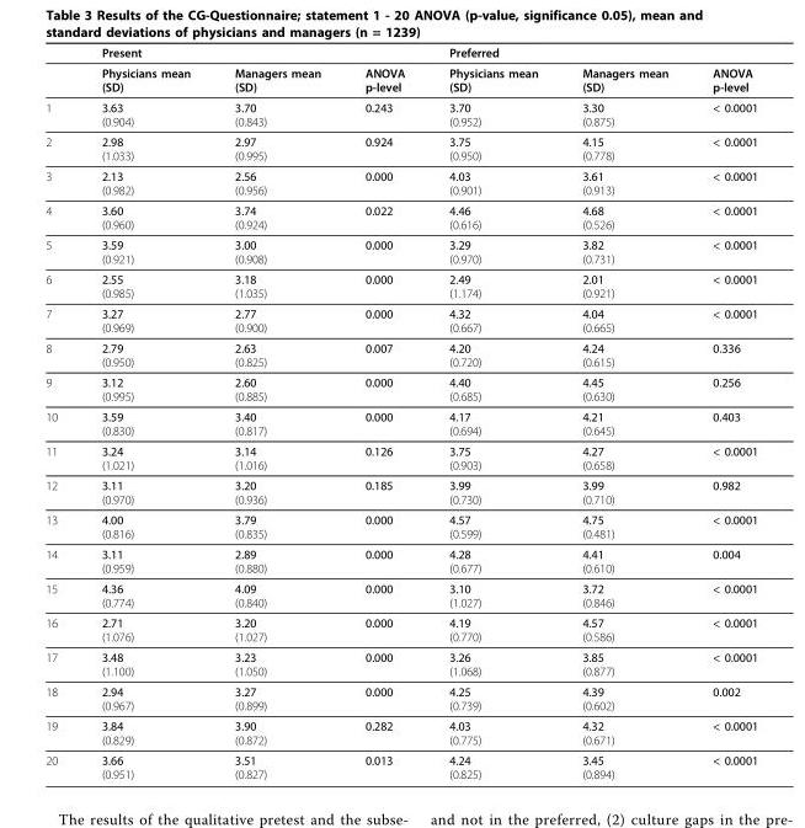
<table><thead><tr><td></td><td>Present</td><td></td><td></td><td>Preferred</td><td></td><td></td></tr></thead><tbody><tr><td></td><td>Physicians mean (SD)</td><td>Managers mean (SD)</td><td>ANOVA p-level</td><td>Physicians mean (SD)</td><td>Managers mean (SD)</td><td>ANOVA p-level</td></tr><tr><td>1</td><td>3.63 (0.904)</td><td>3.70 (0.843)</td><td>0.243</td><td>3.70 (0.952)</td><td>3.30 (0.875)</td><td>&lt; 0.0001</td></tr><tr><td>2</td><td>2.98 (1.033)</td><td>2.97 (0.995)</td><td>0.924</td><td>3.75 (0.950)</td><td>4.15 (0.778)</td><td>&lt; 0.0001</td></tr><tr><td>3</td><td>2.13 (0.982)</td><td>2.56 (0.956)</td><td>0.000</td><td>4.03 (0.901)</td><td>3.61 (0.913)</td><td>&lt; 0.0001</td></tr><tr><td>4</td><td>3.60 (0.960)</td><td>3.74 (0.924)</td><td>0.022</td><td>4.46 (0.616)</td><td>4.68 (0.526)</td><td>&lt; 0.0001</td></tr><tr><td>5</td><td>3.59 (0.921)</td><td>3.00 (0.908)</td><td>0.000</td><td>3.29 (0.970)</td><td>3.82 (0.731)</td><td>&lt; 0.0001</td></tr><tr><td>6</td><td>2.55 (0.985)</td><td>3.18 (1.035)</td><td>0.000</td><td>2.49 (1.174)</td><td>2.01 (0.921)</td><td>&lt; 0.0001</td></tr><tr><td>7</td><td>3.27 (0.969)</td><td>2.77 (0.900)</td><td>0.000</td><td>4.32 (0.667)</td><td>4.04 (0.665)</td><td>&lt; 0.0001</td></tr><tr><td>8</td><td>2.79 (0.950)</td><td>2.63 (0.825)</td><td>0.007</td><td>4.20 (0.720)</td><td>4.24 (0.615)</td><td>0.336</td></tr><tr><td>9</td><td>3.12 (0.995)</td><td>2.60 (0.885)</td><td>0.000</td><td>4.40 (0.685)</td><td>4.45 (0.630)</td><td>0.256</td></tr><tr><td>10</td><td>3.59 (0.830)</td><td>3.40 (0.817)</td><td>0.000</td><td>4.17 (0.694)</td><td>4.21 (0.645)</td><td>0.403</td></tr><tr><td>11</td><td>3.24 (1.021)</td><td>3.14 (1.016)</td><td>0.126</td><td>3.75 (0.903)</td><td>4.27 (0.658)</td><td>&lt; 0.0001</td></tr><tr><td>12</td><td>3.11 (0.970)</td><td>3.20 (0.936)</td><td>0.185</td><td>3.99 (0.730)</td><td>3.99 (0.710)</td><td>0.982</td></tr><tr><td>13</td><td>4.00 (0.816)</td><td>3.79 (0.835)</td><td>0.000</td><td>4.57 (0.599)</td><td>4.75 (0.481)</td><td>&lt; 0.0001</td></tr><tr><td>14</td><td>3.11 (0.959)</td><td>2.89 (0.880)</td><td>0.000</td><td>4.28 (0.677)</td><td>4.41 (0.610)</td><td>0.004</td></tr><tr><td>15</td><td>4.36 (0.774)</td><td>4.09 (0.840)</td><td>0.000</td><td>3.10 (1.027)</td><td>3.72 (0.846)</td><td>&lt; 0.0001</td></tr><tr><td>16</td><td>2.71 (1.076)</td><td>3.20 (1.027)</td><td>0.000</td><td>4.19 (0.770)</td><td>4.57 (0.586)</td><td>&lt; 0.0001</td></tr><tr><td>17</td><td>3.48 (1.100)</td><td>3.23 (1.050)</td><td>0.000</td><td>3.26 (1.068)</td><td>3.85 (0.877)</td><td>&lt; 0.0001</td></tr><tr><td>18</td><td>2.94 (0.967)</td><td>3.27 (0.899)</td><td>0.000</td><td>4.25 (0.739)</td><td>4.39 (0.602)</td><td>0.002</td></tr><tr><td>19</td><td>3.84 (0.829)</td><td>3.90 (0.872)</td><td>0.282</td><td>4.03 (0.775)</td><td>4.32 (0.671)</td><td>&lt; 0.0001</td></tr><tr><td>20</td><td>3.66 (0.951)</td><td>3.51 (0.827)</td><td>0.013</td><td>4.24 (0.825)</td><td>3.45 (0.894)</td><td>&lt; 0.0001</td></tr></tbody></table>